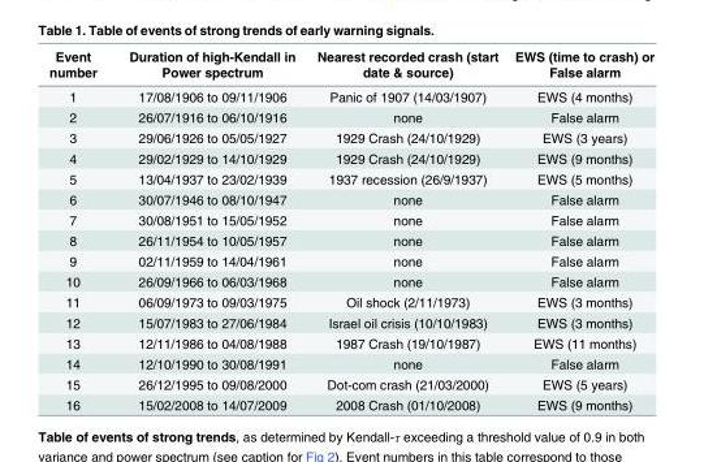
<table><thead><tr><td>Event number</td><td>Duration of high-Kendall in Power spectrum</td><td>Nearest recorded crash (start date &amp; source)</td><td>EWS (time to crash) or False alarm</td></tr></thead><tbody><tr><td>1</td><td>17/08/1906 to 09/11/1906</td><td>Panic of 1907 (14/03/1907)</td><td>EWS (4 months)</td></tr><tr><td>2</td><td>26/07/1916 to 06/10/1916</td><td>none</td><td>False alarm</td></tr><tr><td>3</td><td>29/06/1926 to 05/05/1927</td><td>1929 Crash (24/10/1929)</td><td>EWS (3 years)</td></tr><tr><td>4</td><td>29/02/1929 to 14/10/1929</td><td>1929 Crash (24/10/1929)</td><td>EWS (9 months)</td></tr><tr><td>5</td><td>13/04/1937 to 23/02/1939</td><td>1937 recession (26/9/1937)</td><td>EWS (5 months)</td></tr><tr><td>6</td><td>30/07/1946 to 08/10/1947</td><td>none</td><td>False alarm</td></tr><tr><td>7</td><td>30/08/1951 to 15/05/1952</td><td>none</td><td>False alarm</td></tr><tr><td>8</td><td>26/11/1954 to 10/05/1957</td><td>none</td><td>False alarm</td></tr><tr><td>9</td><td>02/11/1959 to 14/04/1961</td><td>none</td><td>False alarm</td></tr><tr><td>10</td><td>26/09/1966 to 06/03/1968</td><td>none</td><td>False alarm</td></tr><tr><td>11</td><td>06/09/1973 to 09/03/1975</td><td>Oil shock (2/11/1973)</td><td>EWS (3 months)</td></tr><tr><td>12</td><td>15/07/1983 to 27/06/1984</td><td>Israel oil crisis (10/10/1983)</td><td>EWS (3 months)</td></tr><tr><td>13</td><td>12/11/1986 to 04/08/1988</td><td>1987 Crash (19/10/1987)</td><td>EWS (11 months)</td></tr><tr><td>14</td><td>12/10/1990 to 30/08/1991</td><td>none</td><td>False alarm</td></tr><tr><td>15</td><td>26/12/1995 to 09/08/2000</td><td>Dot-com crash (21/03/2000)</td><td>EWS (5 years)</td></tr><tr><td>16</td><td>15/02/2008 to 14/07/2009</td><td>2008 Crash (01/10/2008)</td><td>EWS (9 months)</td></tr></tbody></table>